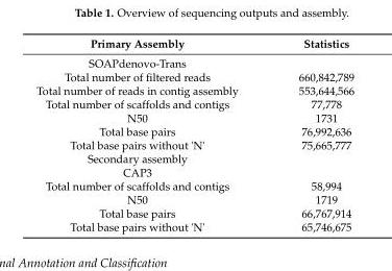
<table><thead><tr><td>Primary Assembly</td><td>Statistics</td></tr></thead><tbody><tr><td colspan="2">SOAPdenovo-Trans</td></tr><tr><td>Total number of filtered reads</td><td>660,842,789</td></tr><tr><td>Total number of reads in contig assembly</td><td>553,644,566</td></tr><tr><td>Total number of scaffolds and contigs</td><td>77,778</td></tr><tr><td>N50</td><td>1731</td></tr><tr><td>Total base pairs</td><td>76,992,636</td></tr><tr><td>Total base pairs without &#x27;N&#x27;</td><td>75,665,777</td></tr><tr><td colspan="2">Secondary assembly</td></tr><tr><td colspan="2">CAP3</td></tr><tr><td>Total number of scaffolds and contigs</td><td>58,994</td></tr><tr><td>N50</td><td>1719</td></tr><tr><td>Total base pairs</td><td>66,767,914</td></tr><tr><td>Total base pairs without &#x27;N&#x27;</td><td>65,746,675</td></tr></tbody></table>